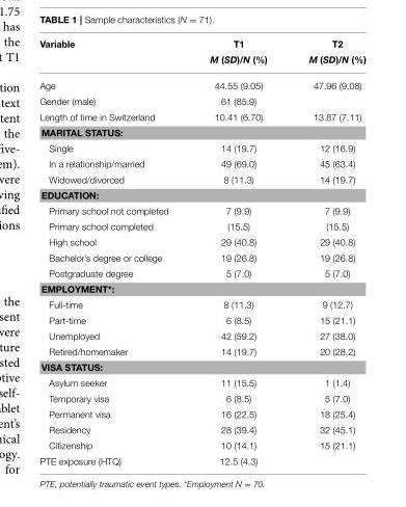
<table><thead><tr><td rowspan="2">Variable</td><td rowspan="2">T1 M (SD)/N (%)</td><td rowspan="2">T2 M (SD)/N (%)</td></tr><tr></tr></thead><tbody><tr><td>Age</td><td>44.55 (9.05)</td><td>47.96 (9.08)</td></tr><tr><td>Gender (male)</td><td>61 (85.9)</td><td></td></tr><tr><td>Length of time in Switzerland</td><td>10.41 (6.70)</td><td>13.87 (7.11)</td></tr><tr><td colspan="3">MARITAL STATUS:</td></tr><tr><td>Single</td><td>14 (19.7)</td><td>12 (16.9)</td></tr><tr><td>In a relationship/married</td><td>49 (69.0)</td><td>45 (63.4)</td></tr><tr><td>Widowed/divorced</td><td>8 (11.3)</td><td>14 (19.7)</td></tr><tr><td colspan="3">EDUCATION:</td></tr><tr><td>Primary school not completed</td><td>7 (9.9)</td><td>7 (9.9)</td></tr><tr><td>Primary school completed</td><td>(15.5)</td><td>(15.5)</td></tr><tr><td>High school</td><td>29 (40.8)</td><td>29 (40.8)</td></tr><tr><td>Bachelor’s degree or college</td><td>19 (26.8)</td><td>19 (26.8)</td></tr><tr><td>Postgraduate degree</td><td>5 (7.0)</td><td>5 (7.0)</td></tr><tr><td colspan="3">EMPLOYMENT*:</td></tr><tr><td>Full-time</td><td>8 (11.3)</td><td>9 (12.7)</td></tr><tr><td>Part-time</td><td>6 (8.5)</td><td>15 (21.1)</td></tr><tr><td>Unemployed</td><td>42 (59.2)</td><td>27 (38.0)</td></tr><tr><td>Retired/homemaker</td><td>14 (19.7)</td><td>20 (28.2)</td></tr><tr><td colspan="3">VISA STATUS:</td></tr><tr><td>Asylum seeker</td><td>11 (15.5)</td><td>1 (1.4)</td></tr><tr><td>Temporary visa</td><td>6 (8.5)</td><td>5 (7.0)</td></tr><tr><td>Permanent visa</td><td>16 (22.5)</td><td>18 (25.4)</td></tr><tr><td>Residency</td><td>28 (39.4)</td><td>32 (45.1)</td></tr><tr><td>Citizenship</td><td>10 (14.1)</td><td>15 (21.1)</td></tr><tr><td>PTE exposure (HTQ)</td><td>12.5 (4.3)</td><td></td></tr></tbody></table>